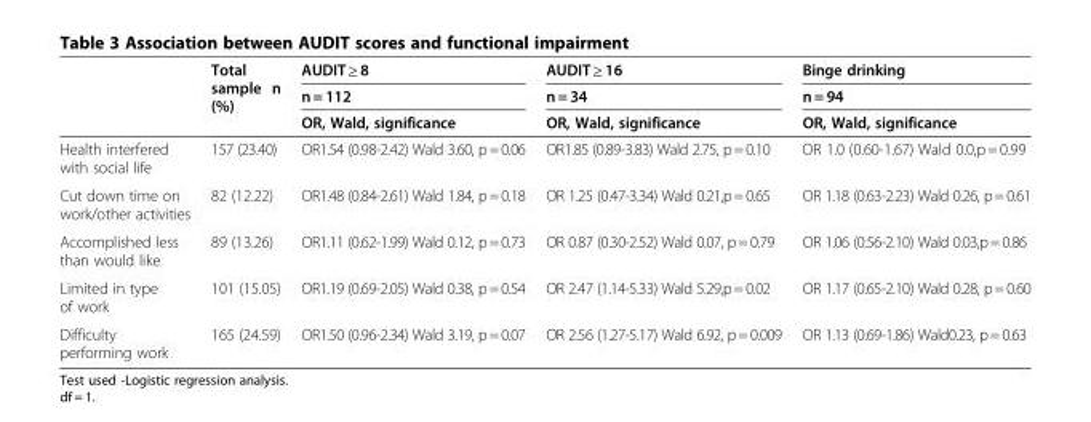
<table><thead><tr><td rowspan="3"></td><td rowspan="3">Total sample n (%)</td><td rowspan="3">AUDIT ≥ 8 n = 112 OR, Wald, significance</td><td rowspan="3">AUDIT ≥ 16 n = 34 OR, Wald, significance</td><td rowspan="3">Binge drinking n = 94 OR, Wald, significance</td></tr><tr></tr><tr></tr></thead><tbody><tr><td>Health interfered with social life</td><td>157 (23.40)</td><td>OR1.54 (0.98-2.42) Wald 3.60, p=0.06</td><td>OR1.85 (0.89-3.83) Wald 2.75, p=0.10</td><td>OR 1.0 (0.60-1.67) Wald 0.0,p = 0.99</td></tr><tr><td>Cut down time on work/other activities</td><td>82 (12.22)</td><td>OR1.48 (0.84-2.61) Wald 1.84, p=0.18</td><td>OR 1.25 (0.47-3.34) Wald 0.21,p=0.65</td><td>OR 1.18 (0.63-2.23) Wald 0.26, p=0.61</td></tr><tr><td>Accomplished less than would like</td><td>89 (13.26)</td><td>OR1.11 (0.62-1.99) Wald 0.12, p=0.73</td><td>OR 0.87 (0.30-2.52) Wald 0.07, p=0.79</td><td>OR 1.06 (0.56-2.10) Wald 0.03,p=0.86</td></tr><tr><td>Limited in type of work</td><td>101 (15.05)</td><td>OR1.19 (0.69-2.05) Wald 0.38, p=0.54</td><td>OR 2.47 (1.14-5.33) Wald 5.29,p=0.02</td><td>OR 1.17 (0.65-2.10) Wald 0.28, p=0.60</td></tr><tr><td>Difficulty performing work</td><td>165 (24.59)</td><td>OR1.50 (0.96-2.34) Wald 3.19, p=0.07</td><td>OR 2.56 (1.27-5.17) Wald 6.92, p=0.009</td><td>OR 1.13 (0.69-1.86) Wald0.23, p=0.63</td></tr></tbody></table>